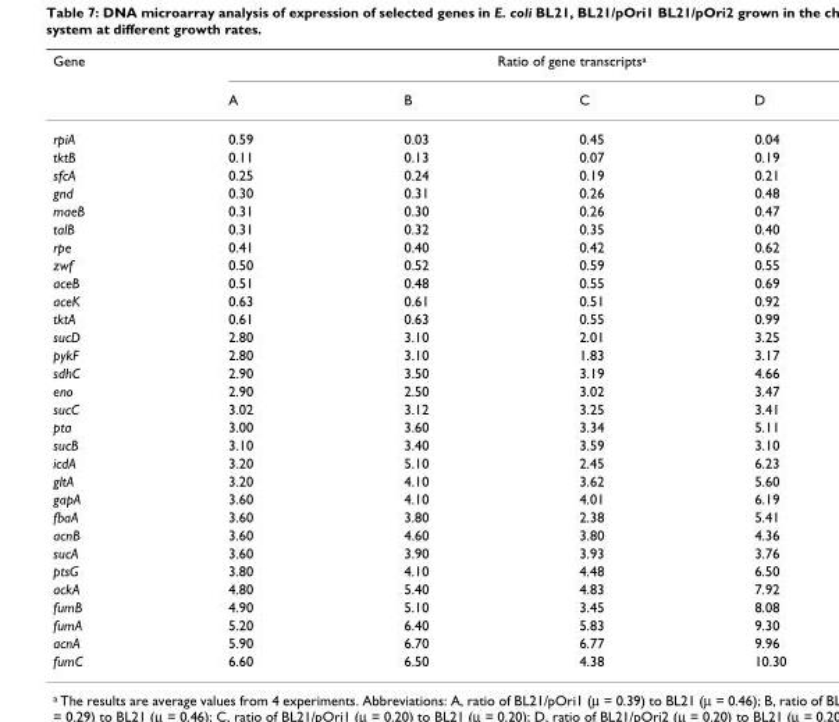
<table><thead><tr><td rowspan="2">Gene</td><td colspan="4">Ratio of gene transcripts<sup>a</sup></td></tr><tr><td>A</td><td>B</td><td>C</td><td>D</td></tr></thead><tbody><tr><td>rpiA</td><td>0.59</td><td>0.03</td><td>0.45</td><td>0.04</td></tr><tr><td>tktB</td><td>0.11</td><td>0.13</td><td>0.07</td><td>0.19</td></tr><tr><td>sfcA</td><td>0.25</td><td>0.24</td><td>0.19</td><td>0.21</td></tr><tr><td>gnd</td><td>0.30</td><td>0.31</td><td>0.26</td><td>0.48</td></tr><tr><td>maeB</td><td>0.31</td><td>0.30</td><td>0.26</td><td>0.47</td></tr><tr><td>talB</td><td>0.31</td><td>0.32</td><td>0.35</td><td>0.40</td></tr><tr><td>rpe</td><td>0.41</td><td>0.40</td><td>0.42</td><td>0.62</td></tr><tr><td>zwf</td><td>0.50</td><td>0.52</td><td>0.59</td><td>0.55</td></tr><tr><td>aceB</td><td>0.51</td><td>0.48</td><td>0.55</td><td>0.69</td></tr><tr><td>aceK</td><td>0.63</td><td>0.61</td><td>0.51</td><td>0.92</td></tr><tr><td>tktA</td><td>0.61</td><td>0.63</td><td>0.55</td><td>0.99</td></tr><tr><td>sucD</td><td>2.80</td><td>3.10</td><td>2.01</td><td>3.25</td></tr><tr><td>pykF</td><td>2.80</td><td>3.10</td><td>1.83</td><td>3.17</td></tr><tr><td>sdhC</td><td>2.90</td><td>3.50</td><td>3.19</td><td>4.66</td></tr><tr><td>eno</td><td>2.90</td><td>2.50</td><td>3.02</td><td>3.47</td></tr><tr><td>sucC</td><td>3.02</td><td>3.12</td><td>3.25</td><td>3.41</td></tr><tr><td>pta</td><td>3.00</td><td>3.60</td><td>3.34</td><td>5.11</td></tr><tr><td>sucB</td><td>3.10</td><td>3.40</td><td>3.59</td><td>3.10</td></tr><tr><td>icdA</td><td>3.20</td><td>5.10</td><td>2.45</td><td>6.23</td></tr><tr><td>gltA</td><td>3.20</td><td>4.10</td><td>3.62</td><td>5.60</td></tr><tr><td>gapA</td><td>3.60</td><td>4.10</td><td>4.01</td><td>6.19</td></tr><tr><td>fbaA</td><td>3.60</td><td>3.80</td><td>2.38</td><td>5.41</td></tr><tr><td>acnB</td><td>3.60</td><td>4.60</td><td>3.80</td><td>4.36</td></tr><tr><td>sucA</td><td>3.60</td><td>3.90</td><td>3.93</td><td>3.76</td></tr><tr><td>ptsG</td><td>3.80</td><td>4.10</td><td>4.48</td><td>6.50</td></tr><tr><td>ackA</td><td>4.80</td><td>5.40</td><td>4.83</td><td>7.92</td></tr><tr><td>fumB</td><td>4.90</td><td>5.10</td><td>3.45</td><td>8.08</td></tr><tr><td>fumA</td><td>5.20</td><td>6.40</td><td>5.83</td><td>9.30</td></tr><tr><td>acnA</td><td>5.90</td><td>6.70</td><td>6.77</td><td>9.96</td></tr><tr><td>fumC</td><td>6.60</td><td>6.50</td><td>4.38</td><td>10.30</td></tr></tbody></table>